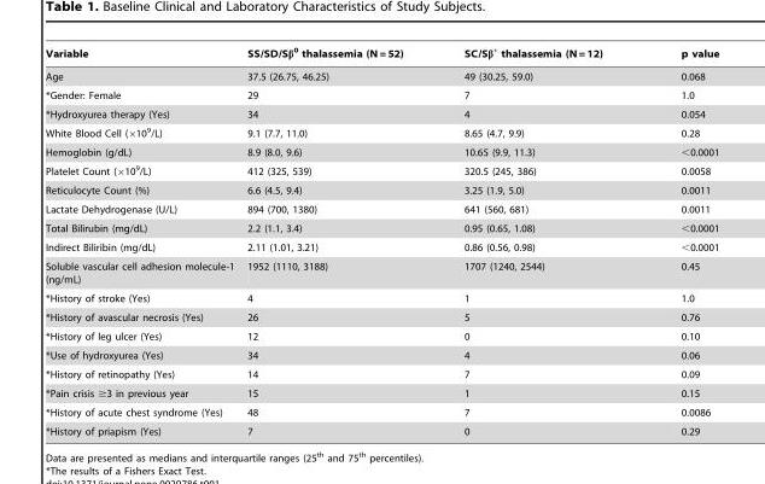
<table><thead><tr><td>Variable</td><td>SS/SD/Sβ<sup>0</sup> thalassemia (N = 52)</td><td>SC/Sβ<sup>+</sup> thalassemia (N = 12)</td><td>p value</td></tr></thead><tbody><tr><td>Age</td><td>37.5 (26.75, 46.25)</td><td>49 (30.25, 59.0)</td><td>0.068</td></tr><tr><td>*Gender: Female</td><td>29</td><td>7</td><td>1.0</td></tr><tr><td>*Hydroxyurea therapy (Yes)</td><td>34</td><td>4</td><td>0.054</td></tr><tr><td>White Blood Cell (×10<sup>9</sup>/L)</td><td>9.1 (7.7, 11.0)</td><td>8.65 (4.7, 9.9)</td><td>0.28</td></tr><tr><td>Hemoglobin (g/dL)</td><td>8.9 (8.0, 9.6)</td><td>10.65 (9.9, 11.3)</td><td>&lt;0.0001</td></tr><tr><td>Platelet Count (×10<sup>9</sup>/L)</td><td>412 (325, 539)</td><td>320.5 (245, 386)</td><td>0.0058</td></tr><tr><td>Reticulocyte Count (%)</td><td>6.6 (4.5, 9.4)</td><td>3.25 (1.9, 5.0)</td><td>0.0011</td></tr><tr><td>Lactate Dehydrogenase (U/L)</td><td>894 (700, 1380)</td><td>641 (560, 681)</td><td>0.0011</td></tr><tr><td>Total Bilirubin (mg/dL)</td><td>2.2 (1.1, 3.4)</td><td>0.95 (0.65, 1.08)</td><td>&lt;0.0001</td></tr><tr><td>Indirect Biliribin (mg/dL)</td><td>2.11 (1.01, 3.21)</td><td>0.86 (0.56, 0.98)</td><td>&lt;0.0001</td></tr><tr><td>Soluble vascular cell adhesion molecule-1 (ng/mL)</td><td>1952 (1110, 3188)</td><td>1707 (1240, 2544)</td><td>0.45</td></tr><tr><td>*History of stroke (Yes)</td><td>4</td><td>1</td><td>1.0</td></tr><tr><td>*History of avascular necrosis (Yes)</td><td>26</td><td>5</td><td>0.76</td></tr><tr><td>*History of leg ulcer (Yes)</td><td>12</td><td>0</td><td>0.10</td></tr><tr><td>*Use of hydroxyurea (Yes)</td><td>34</td><td>4</td><td>0.06</td></tr><tr><td>*History of retinopathy (Yes)</td><td>14</td><td>7</td><td>0.09</td></tr><tr><td>*Pain crisis ≥3 in previous year</td><td>15</td><td>1</td><td>0.15</td></tr><tr><td>*History of acute chest syndrome (Yes)</td><td>48</td><td>7</td><td>0.0086</td></tr><tr><td>*History of priapism (Yes)</td><td>7</td><td>0</td><td>0.29</td></tr></tbody></table>